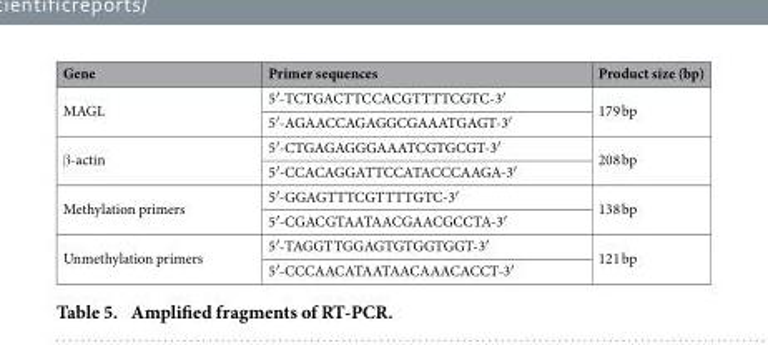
<table><thead><tr><td>Gene</td><td>Primer sequences</td><td>Product size (bp)</td></tr></thead><tbody><tr><td rowspan="2">MAGL</td><td>5′ -TCTGACTTCCACGTTTTCGTC-3′</td><td rowspan="2">179 bp</td></tr><tr><td>5′ -AGAACCAGAGGCGAAATGAGT-3′</td></tr><tr><td rowspan="2">β -actin</td><td>5′ -CTGAGAGGGAAATCGTGCGT-3′</td><td rowspan="2">208 bp</td></tr><tr><td>5′ -CCACAGGATTCCATACCCAAGA-3′</td></tr><tr><td rowspan="2">Methylation primers</td><td>5′ -GGAGTTTCGTTTTGTC-3′</td><td rowspan="2">138 bp</td></tr><tr><td>5′ -CGACGTAATAACGAACGCCTA-3′</td></tr><tr><td rowspan="2">Unmethylation primers</td><td>5′ -TAGGTTGGAGTGTGGTGGT-3′</td><td rowspan="2">121 bp</td></tr><tr><td>5′ -CCCAACATAATAACAAACACCT-3′</td></tr></tbody></table>